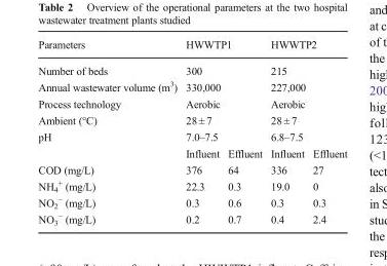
<table><thead><tr><td>Parameters</td><td colspan="2">HWWTP1</td><td colspan="2">HWWTP2</td></tr></thead><tbody><tr><td>Number of beds</td><td colspan="2">300</td><td colspan="2">215</td></tr><tr><td>Annual wastewater volume (m<sup>3</sup>)</td><td colspan="2">330,000</td><td colspan="2">227,000</td></tr><tr><td>Process technology</td><td colspan="2">Aerobic</td><td colspan="2">Aerobic</td></tr><tr><td>Ambient (°C)</td><td colspan="2">28 ± 7</td><td colspan="2">28 ± 7</td></tr><tr><td rowspan="2">pH</td><td colspan="2">7.0–7.5</td><td colspan="2">6.8–7.5</td></tr><tr><td>Influent</td><td>Effluent</td><td>Influent</td><td>Effluent</td></tr><tr><td>COD (mg/L)</td><td>376</td><td>64</td><td>336</td><td>27</td></tr><tr><td>NH<sub>4</sub> <sup>+</sup> (mg/L)</td><td>22.3</td><td>0.3</td><td>19.0</td><td>0</td></tr><tr><td>NO<sub>2</sub> <sup>−</sup> (mg/L)</td><td>0.3</td><td>0.6</td><td>0.3</td><td>0.3</td></tr><tr><td>NO<sub>3</sub> <sup>−</sup> (mg/L)</td><td>0.2</td><td>0.7</td><td>0.4</td><td>2.4</td></tr></tbody></table>